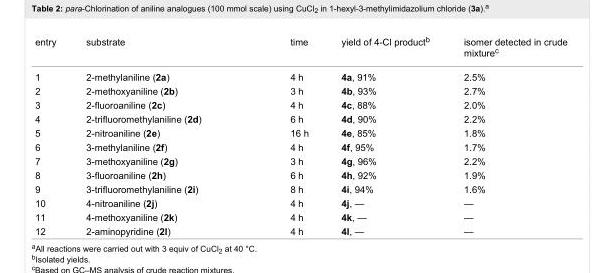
<table><tbody><tr><td>entry</td><td>substrate</td><td>time</td><td>yield of 4-Cl productb</td><td>isomer detected in crude mixture<sup>c</sup></td></tr><tr><td>1</td><td>2-methylaniline (2a)</td><td>4 h</td><td>4a, 91%</td><td>2.5%</td></tr><tr><td>2</td><td>2-methoxyaniline (2b)</td><td>3 h</td><td>4b, 93%</td><td>2.7%</td></tr><tr><td>3</td><td>2-fluoroaniline (2c)</td><td>4 h</td><td>4c, 88%</td><td>2.0%</td></tr><tr><td>4</td><td>2-trifluoromethylaniline (2d)</td><td>6 h</td><td>4d, 90%</td><td>2.2%</td></tr><tr><td>5</td><td>2-nitroaniline (2e)</td><td>16 h</td><td>4e, 85%</td><td>1.8%</td></tr><tr><td>6</td><td>3-methylaniline (2f)</td><td>4 h</td><td>4f, 95%</td><td>1.7%</td></tr><tr><td>7</td><td>3-methoxyaniline (2g)</td><td>3 h</td><td>4g, 96%</td><td>2.2%</td></tr><tr><td>8</td><td>3-fluoroaniline (2h)</td><td>6 h</td><td>4h, 92%</td><td>1.9%</td></tr><tr><td>9</td><td>3-trifluoromethylaniline (2i)</td><td>8 h</td><td>4i, 94%</td><td>1.6%</td></tr><tr><td>10</td><td>4-nitroaniline (2j)</td><td>4 h</td><td>4j, —</td><td>—</td></tr><tr><td>11</td><td>4-methoxyaniline (2k)</td><td>4 h</td><td>4k, —</td><td>—</td></tr><tr><td>12</td><td>2-aminopyridine (2l)</td><td>4 h</td><td>4l, —</td><td>—</td></tr></tbody></table>